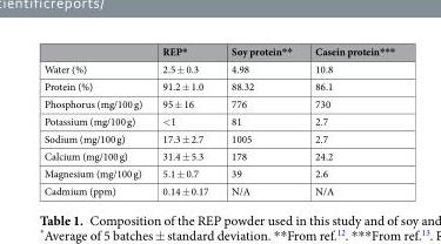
<table><thead><tr><td></td><td>REP*</td><td>Soy protein**</td><td>Casein protein***</td></tr></thead><tbody><tr><td>Water (%)</td><td>2.5 ± 0.3</td><td>4.98</td><td>10.8</td></tr><tr><td>Protein (%)</td><td>91.2 ± 1.0</td><td>88.32</td><td>86.1</td></tr><tr><td>Phosphorus (mg/100 g)</td><td>95 ± 16</td><td>776</td><td>730</td></tr><tr><td>Potassium (mg/100 g)</td><td>&lt;1</td><td>81</td><td>2.7</td></tr><tr><td>Sodium (mg/100 g)</td><td>17.3 ± 2.7</td><td>1005</td><td>2.7</td></tr><tr><td>Calcium (mg/100 g)</td><td>31.4 ± 5.3</td><td>178</td><td>24.2</td></tr><tr><td>Magnesium (mg/100 g)</td><td>5.1 ± 0.7</td><td>39</td><td>2.6</td></tr><tr><td>Cadmium (ppm)</td><td>0.14 ± 0.17</td><td>N/A</td><td>N/A</td></tr></tbody></table>